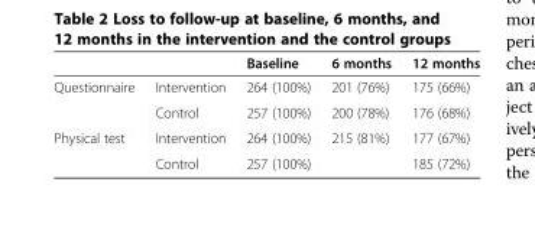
<table><thead><tr><td></td><td></td><td>Baseline</td><td>6 months</td><td>12 months</td></tr></thead><tbody><tr><td rowspan="2">Questionnaire</td><td>Intervention</td><td>264 (100%)</td><td>201 (76%)</td><td>175 (66%)</td></tr><tr><td>Control</td><td>257 (100%)</td><td>200 (78%)</td><td>176 (68%)</td></tr><tr><td rowspan="2">Physical test</td><td>Intervention</td><td>264 (100%)</td><td>215 (81%)</td><td>177 (67%)</td></tr><tr><td>Control</td><td>257 (100%)</td><td></td><td>185 (72%)</td></tr></tbody></table>